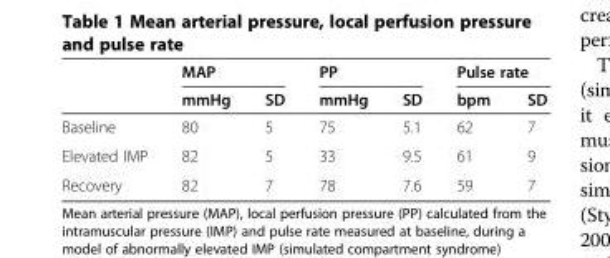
<table><thead><tr><td rowspan="2"></td><td colspan="2">MAP</td><td colspan="2">PP</td><td colspan="2">Pulse rate</td></tr><tr><td>mmHg</td><td>SD</td><td>mmHg</td><td>SD</td><td>bpm</td><td>SD</td></tr></thead><tbody><tr><td>Baseline</td><td>80</td><td>5</td><td>75</td><td>5.1</td><td>62</td><td>7</td></tr><tr><td>Elevated IMP</td><td>82</td><td>5</td><td>33</td><td>9.5</td><td>61</td><td>9</td></tr><tr><td>Recovery</td><td>82</td><td>7</td><td>78</td><td>7.6</td><td>59</td><td>7</td></tr></tbody></table>